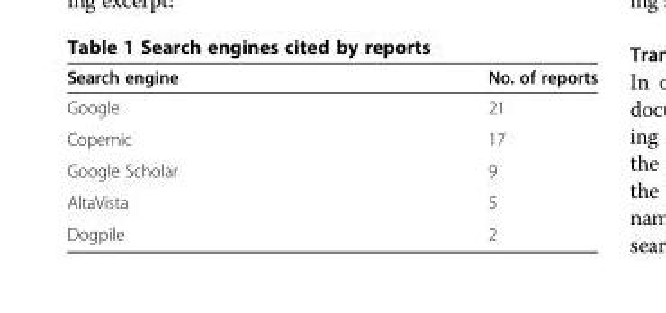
<table><thead><tr><td>Search engine</td><td>No. of reports</td></tr></thead><tbody><tr><td>Google</td><td>21</td></tr><tr><td>Copernic</td><td>17</td></tr><tr><td>Google Scholar</td><td>9</td></tr><tr><td>AltaVista</td><td>5</td></tr><tr><td>Dogpile</td><td>2</td></tr></tbody></table>